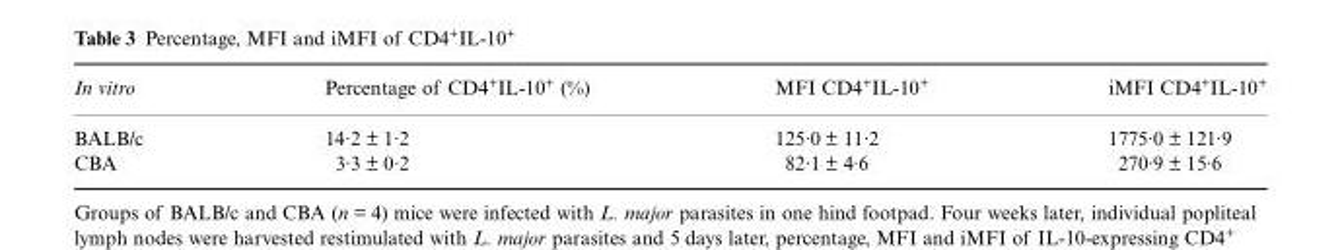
<table><thead><tr><td>In vitro</td><td>Percentage of CD4<sup>+</sup>IL-10<sup>+</sup> (%)</td><td>MFI CD4<sup>+</sup>IL-10<sup>+</sup></td><td>iMFI CD4<sup>+</sup>IL-10<sup>+</sup></td></tr></thead><tbody><tr><td>BALB/c</td><td>14·2 ± 1·2</td><td>125·0 ± 11·2</td><td>1775·0 ± 121·9</td></tr><tr><td>CBA</td><td>3·3 ± 0·2</td><td>82·1 ± 4·6</td><td>270·9 ± 15·6</td></tr></tbody></table>